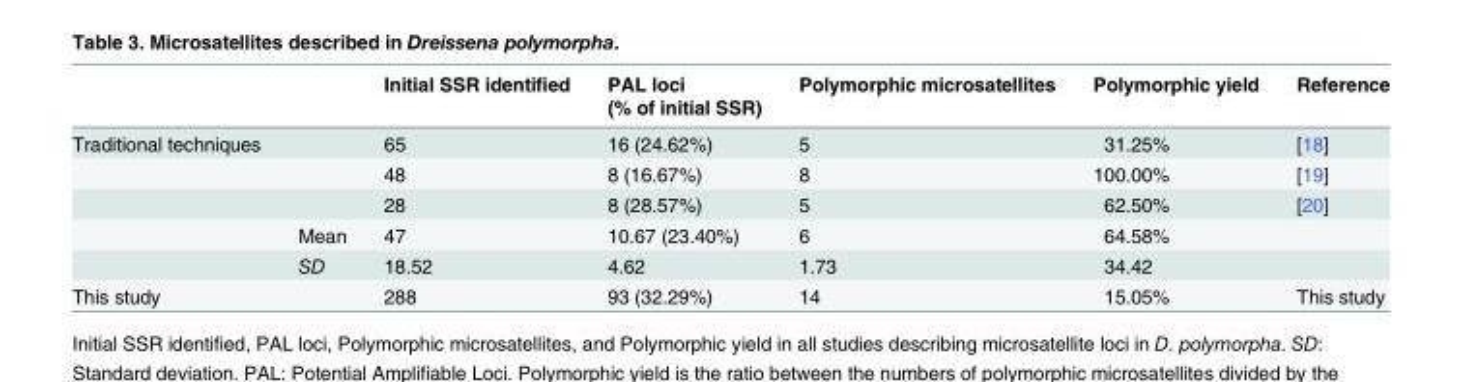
<table><thead><tr><td rowspan="2"></td><td rowspan="2"></td><td rowspan="2">Initial SSR identified</td><td rowspan="2">PAL loci (% of initial SSR)</td><td rowspan="2">Polymorphic microsatellites</td><td rowspan="2">Polymorphic yield</td><td rowspan="2">Reference</td></tr><tr></tr></thead><tbody><tr><td rowspan="5">Traditional techniques</td><td></td><td>65</td><td>16 (24.62%)</td><td>5</td><td>31.25%</td><td>[18]</td></tr><tr><td></td><td>48</td><td>8 (16.67%)</td><td>8</td><td>100.00%</td><td>[19]</td></tr><tr><td></td><td>28</td><td>8 (28.57%)</td><td>5</td><td>62.50%</td><td>[20]</td></tr><tr><td>Mean</td><td>47</td><td>10.67 (23.40%)</td><td>6</td><td>64.58%</td><td></td></tr><tr><td>SD</td><td>18.52</td><td>4.62</td><td>1.73</td><td>34.42</td><td></td></tr><tr><td>This study</td><td></td><td>288</td><td>93 (32.29%)</td><td>14</td><td>15.05%</td><td>This study</td></tr></tbody></table>